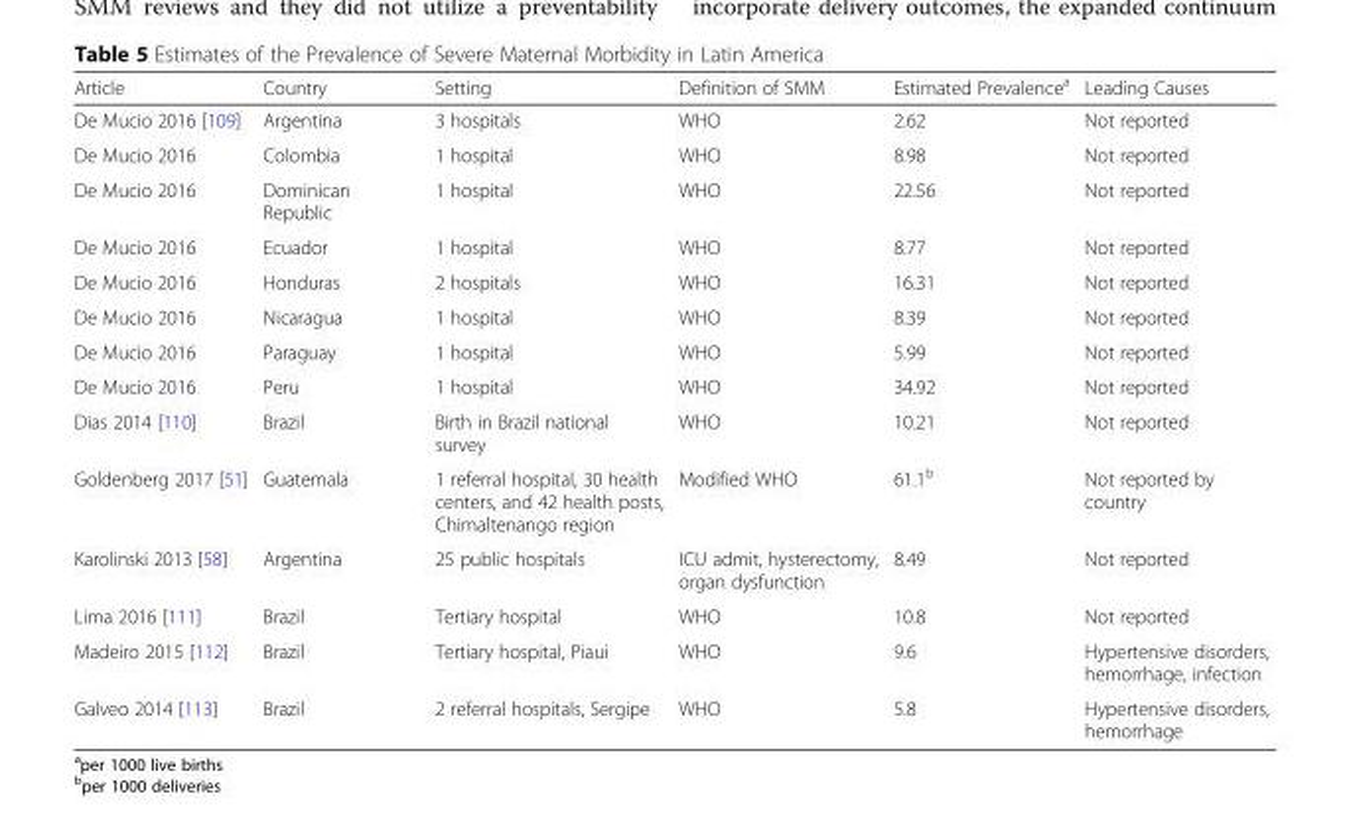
<table><thead><tr><td>Article</td><td>Country</td><td>Setting</td><td>Definition of SMM</td><td>Estimated Prevalence<sup>a</sup></td><td>Leading Causes</td></tr></thead><tbody><tr><td>De Mucio 2016 [109]</td><td>Argentina</td><td>3 hospitals</td><td>WHO</td><td>2.62</td><td>Not reported</td></tr><tr><td>De Mucio 2016</td><td>Colombia</td><td>1 hospital</td><td>WHO</td><td>8.98</td><td>Not reported</td></tr><tr><td>De Mucio 2016</td><td>Dominican Republic</td><td>1 hospital</td><td>WHO</td><td>22.56</td><td>Not reported</td></tr><tr><td>De Mucio 2016</td><td>Ecuador</td><td>1 hospital</td><td>WHO</td><td>8.77</td><td>Not reported</td></tr><tr><td>De Mucio 2016</td><td>Honduras</td><td>2 hospitals</td><td>WHO</td><td>16.31</td><td>Not reported</td></tr><tr><td>De Mucio 2016</td><td>Nicaragua</td><td>1 hospital</td><td>WHO</td><td>8.39</td><td>Not reported</td></tr><tr><td>De Mucio 2016</td><td>Paraguay</td><td>1 hospital</td><td>WHO</td><td>5.99</td><td>Not reported</td></tr><tr><td>De Mucio 2016</td><td>Peru</td><td>1 hospital</td><td>WHO</td><td>34.92</td><td>Not reported</td></tr><tr><td>Dias 2014 [110]</td><td>Brazil</td><td>Birth in Brazil national survey</td><td>WHO</td><td>10.21</td><td>Not reported</td></tr><tr><td>Goldenberg 2017 [51]</td><td>Guatemala</td><td>1 referral hospital, 30 health centers, and 42 health posts, Chimaltenango region</td><td>Modified WHO</td><td>61.1<sup>b</sup></td><td>Not reported by country</td></tr><tr><td>Karolinski 2013 [58]</td><td>Argentina</td><td>25 public hospitals</td><td>ICU admit, hysterectomy, organ dysfunction</td><td>8.49</td><td>Not reported</td></tr><tr><td>Lima 2016 [111]</td><td>Brazil</td><td>Tertiary hospital</td><td>WHO</td><td>10.8</td><td>Not reported</td></tr><tr><td>Madeiro 2015 [112]</td><td>Brazil</td><td>Tertiary hospital, Piaui</td><td>WHO</td><td>9.6</td><td>Hypertensive disorders, hemorrhage, infection</td></tr><tr><td>Galveo 2014 [113]</td><td>Brazil</td><td>2 referral hospitals, Sergipe</td><td>WHO</td><td>5.8</td><td>Hypertensive disorders, hemorrhage</td></tr></tbody></table>